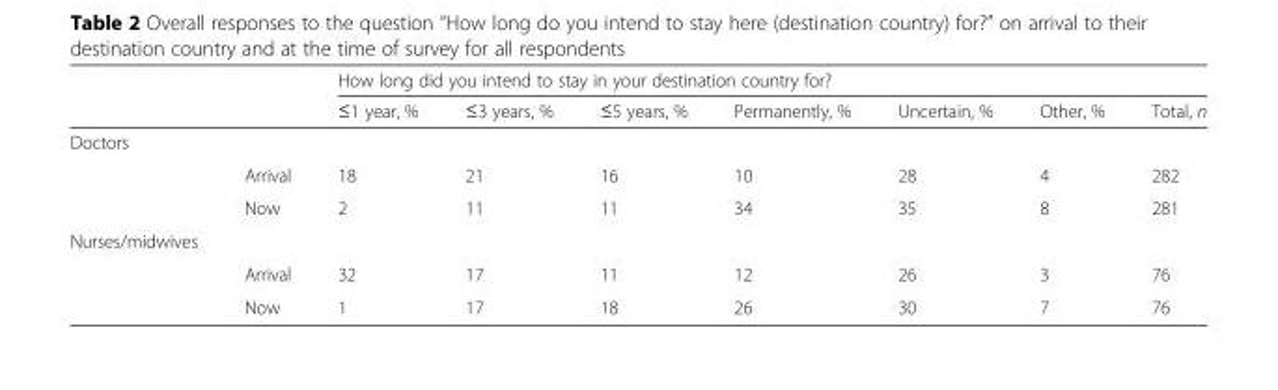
<table><thead><tr><td rowspan="2"></td><td rowspan="2"></td><td colspan="7">How long did you intend to stay in your destination country for?</td></tr><tr><td>≤1 year, %</td><td>≤3 years, %</td><td>≤5 years, %</td><td>Permanently, %</td><td>Uncertain, %</td><td>Other, %</td><td>Total, n</td></tr></thead><tbody><tr><td colspan="9">Doctors</td></tr><tr><td></td><td>Arrival</td><td>18</td><td>21</td><td>16</td><td>10</td><td>28</td><td>4</td><td>282</td></tr><tr><td></td><td>Now</td><td>2</td><td>11</td><td>11</td><td>34</td><td>35</td><td>8</td><td>281</td></tr><tr><td colspan="9">Nurses/midwives</td></tr><tr><td></td><td>Arrival</td><td>32</td><td>17</td><td>11</td><td>12</td><td>26</td><td>3</td><td>76</td></tr><tr><td></td><td>Now</td><td>1</td><td>17</td><td>18</td><td>26</td><td>30</td><td>7</td><td>76</td></tr></tbody></table>